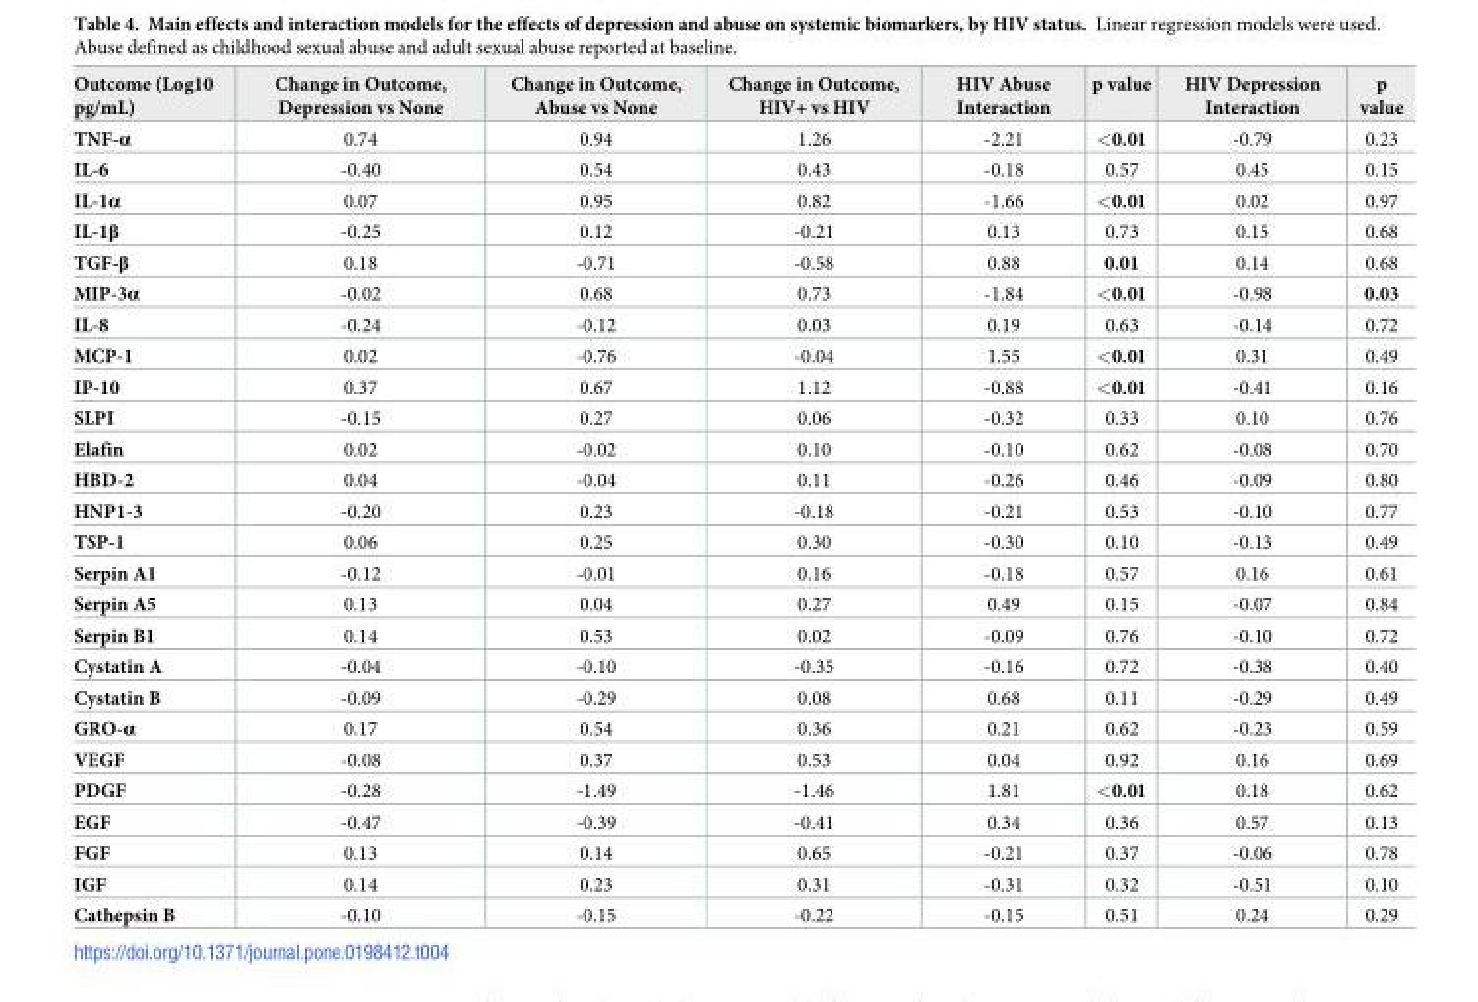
<table><thead><tr><td>Outcome (Log10 pg/mL)</td><td>Change in Outcome, Depression vs None</td><td>Change in Outcome, Abuse vs None</td><td>Change in Outcome, HIV+ vs HIV</td><td>HIV Abuse Interaction</td><td>p value</td><td>HIV Depression Interaction</td><td>p value</td></tr></thead><tbody><tr><td>TNF-α</td><td>0.74</td><td>0.94</td><td>1.26</td><td>-2.21</td><td>&lt;0.01</td><td>-0.79</td><td>0.23</td></tr><tr><td>IL-6</td><td>-0.40</td><td>0.54</td><td>0.43</td><td>-0.18</td><td>0.57</td><td>0.45</td><td>0.15</td></tr><tr><td>IL-1α</td><td>0.07</td><td>0.95</td><td>0.82</td><td>-1.66</td><td>&lt;0.01</td><td>0.02</td><td>0.97</td></tr><tr><td>IL-1β</td><td>-0.25</td><td>0.12</td><td>-0.21</td><td>0.13</td><td>0.73</td><td>0.15</td><td>0.68</td></tr><tr><td>TGF-β</td><td>0.18</td><td>-0.71</td><td>-0.58</td><td>0.88</td><td>0.01</td><td>0.14</td><td>0.68</td></tr><tr><td>MIP-3α</td><td>-0.02</td><td>0.68</td><td>0.73</td><td>-1.84</td><td>&lt;0.01</td><td>-0.98</td><td>0.03</td></tr><tr><td>IL-8</td><td>-0.24</td><td>-0.12</td><td>0.03</td><td>0.19</td><td>0.63</td><td>-0.14</td><td>0.72</td></tr><tr><td>MCP-1</td><td>0.02</td><td>-0.76</td><td>-0.04</td><td>1.55</td><td>&lt;0.01</td><td>0.31</td><td>0.49</td></tr><tr><td>IP-10</td><td>0.37</td><td>0.67</td><td>1.12</td><td>-0.88</td><td>&lt;0.01</td><td>-0.41</td><td>0.16</td></tr><tr><td>SLPI</td><td>-0.15</td><td>0.27</td><td>0.06</td><td>-0.32</td><td>0.33</td><td>0.10</td><td>0.76</td></tr><tr><td>Elafin</td><td>0.02</td><td>-0.02</td><td>0.10</td><td>-0.10</td><td>0.62</td><td>-0.08</td><td>0.70</td></tr><tr><td>HBD-2</td><td>0.04</td><td>-0.04</td><td>0.11</td><td>-0.26</td><td>0.46</td><td>-0.09</td><td>0.80</td></tr><tr><td>HNP1-3</td><td>-0.20</td><td>0.23</td><td>-0.18</td><td>-0.21</td><td>0.53</td><td>-0.10</td><td>0.77</td></tr><tr><td>TSP-1</td><td>0.06</td><td>0.25</td><td>0.30</td><td>-0.30</td><td>0.10</td><td>-0.13</td><td>0.49</td></tr><tr><td>Serpin A1</td><td>-0.12</td><td>-0.01</td><td>0.16</td><td>-0.18</td><td>0.57</td><td>0.16</td><td>0.61</td></tr><tr><td>Serpin A5</td><td>0.13</td><td>0.04</td><td>0.27</td><td>0.49</td><td>0.15</td><td>-0.07</td><td>0.84</td></tr><tr><td>Serpin B1</td><td>0.14</td><td>0.53</td><td>0.02</td><td>-0.09</td><td>0.76</td><td>-0.10</td><td>0.72</td></tr><tr><td>Cystatin A</td><td>-0.04</td><td>-0.10</td><td>-0.35</td><td>-0.16</td><td>0.72</td><td>-0.38</td><td>0.40</td></tr><tr><td>Cystatin B</td><td>-0.09</td><td>-0.29</td><td>0.08</td><td>0.68</td><td>0.11</td><td>-0.29</td><td>0.49</td></tr><tr><td>GRO-α</td><td>0.17</td><td>0.54</td><td>0.36</td><td>0.21</td><td>0.62</td><td>-0.23</td><td>0.59</td></tr><tr><td>VEGF</td><td>-0.08</td><td>0.37</td><td>0.53</td><td>0.04</td><td>0.92</td><td>0.16</td><td>0.69</td></tr><tr><td>PDGF</td><td>-0.28</td><td>-1.49</td><td>-1.46</td><td>1.81</td><td>&lt;0.01</td><td>0.18</td><td>0.62</td></tr><tr><td>EGF</td><td>-0.47</td><td>-0.39</td><td>-0.41</td><td>0.34</td><td>0.36</td><td>0.57</td><td>0.13</td></tr><tr><td>FGF</td><td>0.13</td><td>0.14</td><td>0.65</td><td>-0.21</td><td>0.37</td><td>-0.06</td><td>0.78</td></tr><tr><td>IGF</td><td>0.14</td><td>0.23</td><td>0.31</td><td>-0.31</td><td>0.32</td><td>-0.51</td><td>0.10</td></tr><tr><td>Cathepsin B</td><td>-0.10</td><td>-0.15</td><td>-0.22</td><td>-0.15</td><td>0.51</td><td>0.24</td><td>0.29</td></tr></tbody></table>